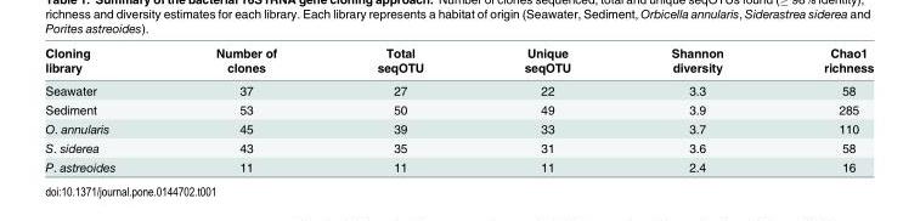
<table><thead><tr><td rowspan="2">Cloning library</td><td rowspan="2">Number of clones</td><td rowspan="2">Total seqOTU</td><td rowspan="2">Unique seqOTU</td><td rowspan="2">Shannon diversity</td><td rowspan="2">Chao1 richness</td></tr><tr></tr></thead><tbody><tr><td>Seawater</td><td>37</td><td>27</td><td>22</td><td>3.3</td><td>58</td></tr><tr><td>Sediment</td><td>53</td><td>50</td><td>49</td><td>3.9</td><td>285</td></tr><tr><td>O. annularis</td><td>45</td><td>39</td><td>33</td><td>3.7</td><td>110</td></tr><tr><td>S. siderea</td><td>43</td><td>35</td><td>31</td><td>3.6</td><td>58</td></tr><tr><td>P. astreoides</td><td>11</td><td>11</td><td>11</td><td>2.4</td><td>16</td></tr></tbody></table>